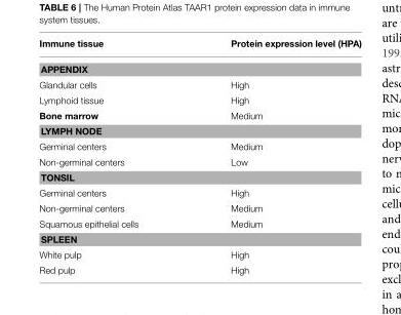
<table><thead><tr><td>Immune tissue</td><td>Protein expression level (HPA)</td></tr></thead><tbody><tr><td colspan="2">APPENDIX</td></tr><tr><td>Glandular cells</td><td>High</td></tr><tr><td>Lymphoid tissue</td><td>High</td></tr><tr><td>Bone marrow</td><td>Medium</td></tr><tr><td colspan="2">LYMPH NODE</td></tr><tr><td>Germinal centers</td><td>Medium</td></tr><tr><td>Non-germinal centers</td><td>Low</td></tr><tr><td colspan="2">TONSIL</td></tr><tr><td>Germinal centers</td><td>High</td></tr><tr><td>Non-germinal centers</td><td>Medium</td></tr><tr><td>Squamous epithelial cells</td><td>Medium</td></tr><tr><td colspan="2">SPLEEN</td></tr><tr><td>White pulp</td><td>High</td></tr><tr><td>Red pulp</td><td>High</td></tr></tbody></table>